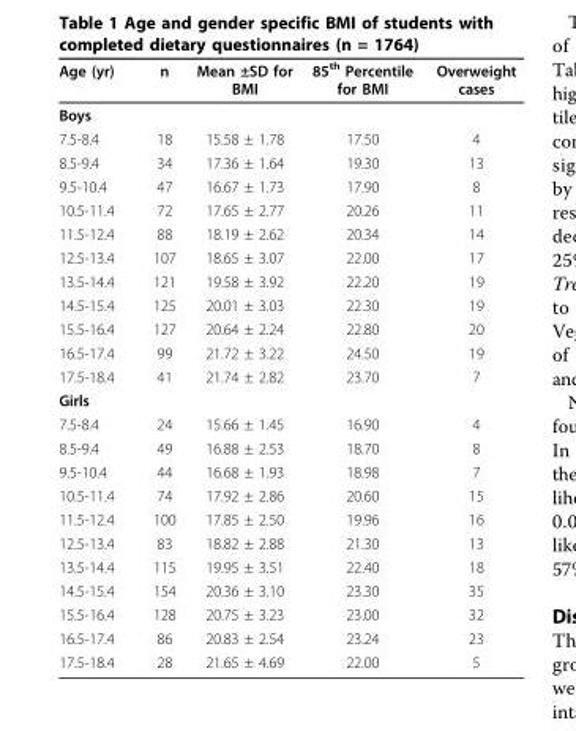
<table><thead><tr><td>Age (yr)</td><td>n</td><td>Mean ±SD for BMI</td><td>85<sup>th</sup> Percentile for BMI</td><td>Overweight cases</td></tr></thead><tbody><tr><td colspan="5">Boys</td></tr><tr><td>7.5-8.4</td><td>18</td><td>15.58 ± 1.78</td><td>17.50</td><td>4</td></tr><tr><td>8.5-9.4</td><td>34</td><td>17.36 ± 1.64</td><td>19.30</td><td>13</td></tr><tr><td>9.5-10.4</td><td>47</td><td>16.67 ± 1.73</td><td>17.90</td><td>8</td></tr><tr><td>10.5-11.4</td><td>72</td><td>17.65 ± 2.77</td><td>20.26</td><td>11</td></tr><tr><td>11.5-12.4</td><td>88</td><td>18.19 ± 2.62</td><td>20.34</td><td>14</td></tr><tr><td>12.5-13.4</td><td>107</td><td>18.65 ± 3.07</td><td>22.00</td><td>17</td></tr><tr><td>13.5-14.4</td><td>121</td><td>19.58 ± 3.92</td><td>22.20</td><td>19</td></tr><tr><td>14.5-15.4</td><td>125</td><td>20.01 ± 3.03</td><td>22.30</td><td>19</td></tr><tr><td>15.5-16.4</td><td>127</td><td>20.64 ± 2.24</td><td>22.80</td><td>20</td></tr><tr><td>16.5-17.4</td><td>99</td><td>21.72 ± 3.22</td><td>24.50</td><td>19</td></tr><tr><td>17.5-18.4</td><td>41</td><td>21.74 ± 2.82</td><td>23.70</td><td>7</td></tr><tr><td colspan="5">Girls</td></tr><tr><td>7.5-8.4</td><td>24</td><td>15.66 ± 1.45</td><td>16.90</td><td>4</td></tr><tr><td>8.5-9.4</td><td>49</td><td>16.88 ± 2.53</td><td>18.70</td><td>8</td></tr><tr><td>9.5-10.4</td><td>44</td><td>16.68 ± 1.93</td><td>18.98</td><td>7</td></tr><tr><td>10.5-11.4</td><td>74</td><td>17.92 ± 2.86</td><td>20.60</td><td>15</td></tr><tr><td>11.5-12.4</td><td>100</td><td>17.85 ± 2.50</td><td>19.96</td><td>16</td></tr><tr><td>12.5-13.4</td><td>83</td><td>18.82 ± 2.88</td><td>21.30</td><td>13</td></tr><tr><td>13.5-14.4</td><td>115</td><td>19.95 ± 3.51</td><td>22.40</td><td>18</td></tr><tr><td>14.5-15.4</td><td>154</td><td>20.36 ± 3.10</td><td>23.30</td><td>35</td></tr><tr><td>15.5-16.4</td><td>128</td><td>20.75 ± 3.23</td><td>23.00</td><td>32</td></tr><tr><td>16.5-17.4</td><td>86</td><td>20.83 ± 2.54</td><td>23.24</td><td>23</td></tr><tr><td>17.5-18.4</td><td>28</td><td>21.65 ± 4.69</td><td>22.00</td><td>5</td></tr></tbody></table>